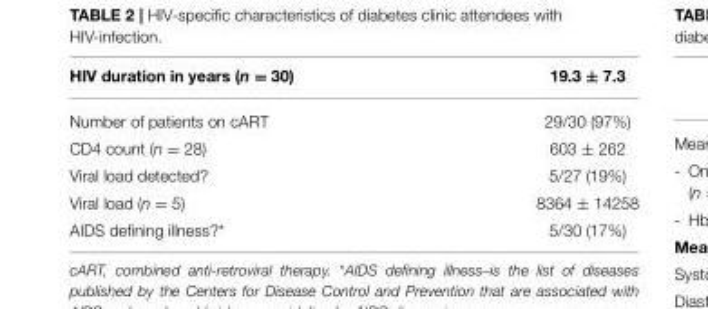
<table><thead><tr><td>HIV duration in years (n = 30)</td><td>19.3 ± 7.3</td></tr></thead><tbody><tr><td>Number of patients on cART</td><td>29/30 (97%)</td></tr><tr><td>CD4 count (n = 28)</td><td>603 ± 262</td></tr><tr><td>Viral load detected?</td><td>5/27 (19%)</td></tr><tr><td>Viral load (n = 5)</td><td>8364 ± 14258</td></tr><tr><td>AIDS defining illness?*</td><td>5/30 (17%)</td></tr></tbody></table>